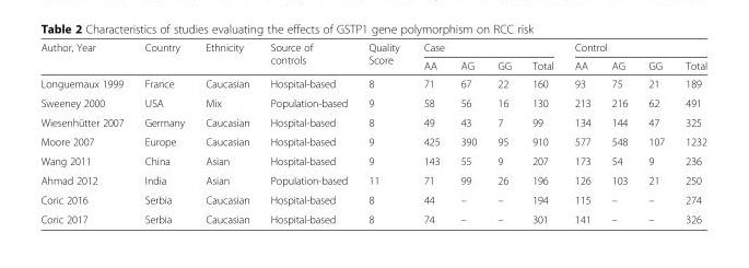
<table><thead><tr><td rowspan="2">Author, Year</td><td rowspan="2">Country</td><td rowspan="2">Ethnicity</td><td rowspan="2">Source of controls</td><td rowspan="2">Quality Score</td><td colspan="4">Case</td><td colspan="4">Control</td></tr><tr><td>AA</td><td>AG</td><td>GG</td><td>Total</td><td>AA</td><td>AG</td><td>GG</td><td>Total</td></tr></thead><tbody><tr><td>Longuemaux 1999</td><td>France</td><td>Caucasian</td><td>Hospital-based</td><td>8</td><td>71</td><td>67</td><td>22</td><td>160</td><td>93</td><td>75</td><td>21</td><td>189</td></tr><tr><td>Sweeney 2000</td><td>USA</td><td>Mix</td><td>Population-based</td><td>9</td><td>58</td><td>56</td><td>16</td><td>130</td><td>213</td><td>216</td><td>62</td><td>491</td></tr><tr><td>Wiesenhütter 2007</td><td>Germany</td><td>Caucasian</td><td>Hospital-based</td><td>8</td><td>49</td><td>43</td><td>7</td><td>99</td><td>134</td><td>144</td><td>47</td><td>325</td></tr><tr><td>Moore 2007</td><td>Europe</td><td>Caucasian</td><td>Hospital-based</td><td>9</td><td>425</td><td>390</td><td>95</td><td>910</td><td>577</td><td>548</td><td>107</td><td>1232</td></tr><tr><td>Wang 2011</td><td>China</td><td>Asian</td><td>Hospital-based</td><td>9</td><td>143</td><td>55</td><td>9</td><td>207</td><td>173</td><td>54</td><td>9</td><td>236</td></tr><tr><td>Ahmad 2012</td><td>India</td><td>Asian</td><td>Population-based</td><td>11</td><td>71</td><td>99</td><td>26</td><td>196</td><td>126</td><td>103</td><td>21</td><td>250</td></tr><tr><td>Coric 2016</td><td>Serbia</td><td>Caucasian</td><td>Hospital-based</td><td>8</td><td>44</td><td>–</td><td>–</td><td>194</td><td>115</td><td>–</td><td>–</td><td>274</td></tr><tr><td>Coric 2017</td><td>Serbia</td><td>Caucasian</td><td>Hospital-based</td><td>8</td><td>74</td><td>–</td><td>–</td><td>301</td><td>141</td><td>–</td><td>–</td><td>326</td></tr></tbody></table>